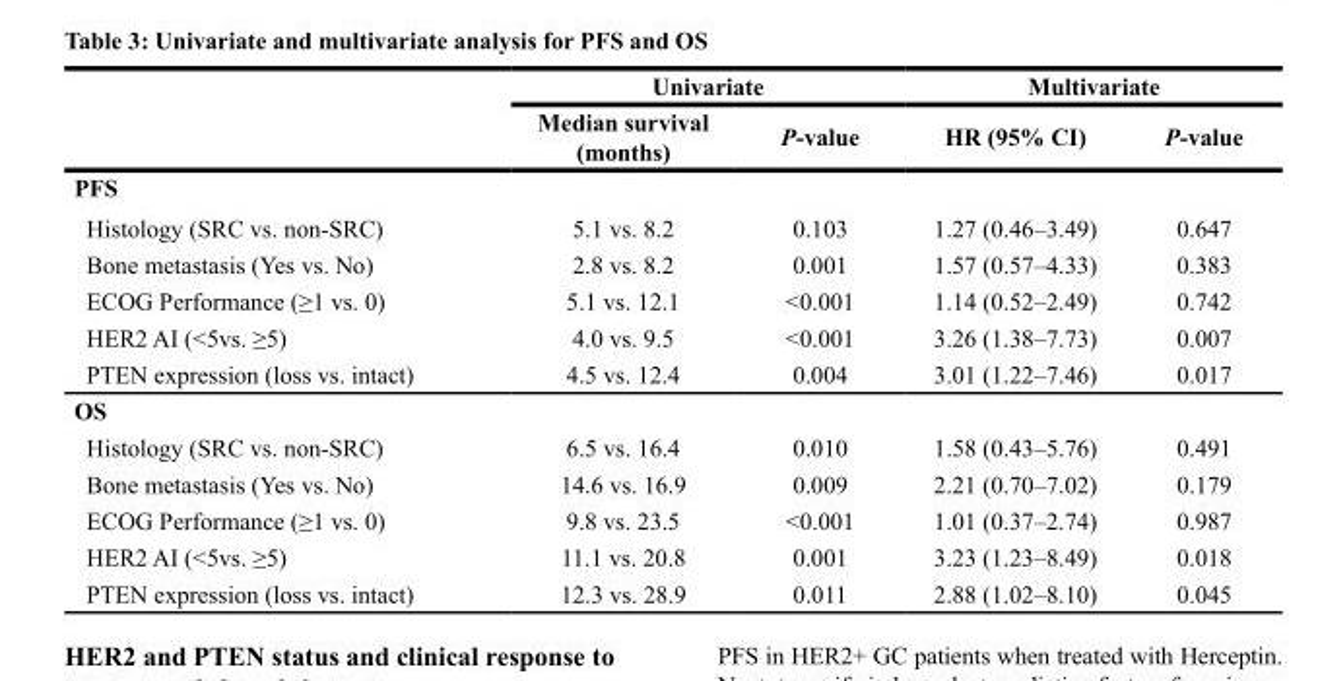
<table><thead><tr><td rowspan="2"></td><td colspan="2">Univariate</td><td colspan="2">Multivariate</td></tr><tr><td>Median survival (months)</td><td>P-value</td><td>HR (95% CI)</td><td>P-value</td></tr></thead><tbody><tr><td colspan="5">PFS</td></tr><tr><td>Histology (SRC vs. non-SRC)</td><td>5.1 vs. 8.2</td><td>0.103</td><td>1.27 (0.46–3.49)</td><td>0.647</td></tr><tr><td>Bone metastasis (Yes vs. No)</td><td>2.8 vs. 8.2</td><td>0.001</td><td>1.57 (0.57–4.33)</td><td>0.383</td></tr><tr><td>ECOG Performance (≥1 vs. 0)</td><td>5.1 vs. 12.1</td><td>&lt;0.001</td><td>1.14 (0.52–2.49)</td><td>0.742</td></tr><tr><td>HER2 AI (&lt;5vs. ≥5)</td><td>4.0 vs. 9.5</td><td>&lt;0.001</td><td>3.26 (1.38–7.73)</td><td>0.007</td></tr><tr><td>PTEN expression (loss vs. intact)</td><td>4.5 vs. 12.4</td><td>0.004</td><td>3.01 (1.22–7.46)</td><td>0.017</td></tr><tr><td colspan="5">OS</td></tr><tr><td>Histology (SRC vs. non-SRC)</td><td>6.5 vs. 16.4</td><td>0.010</td><td>1.58 (0.43–5.76)</td><td>0.491</td></tr><tr><td>Bone metastasis (Yes vs. No)</td><td>14.6 vs. 16.9</td><td>0.009</td><td>2.21 (0.70–7.02)</td><td>0.179</td></tr><tr><td>ECOG Performance (≥1 vs. 0)</td><td>9.8 vs. 23.5</td><td>&lt;0.001</td><td>1.01 (0.37–2.74)</td><td>0.987</td></tr><tr><td>HER2 AI (&lt;5vs. ≥5)</td><td>11.1 vs. 20.8</td><td>0.001</td><td>3.23 (1.23–8.49)</td><td>0.018</td></tr><tr><td>PTEN expression (loss vs. intact)</td><td>12.3 vs. 28.9</td><td>0.011</td><td>2.88 (1.02–8.10)</td><td>0.045</td></tr></tbody></table>